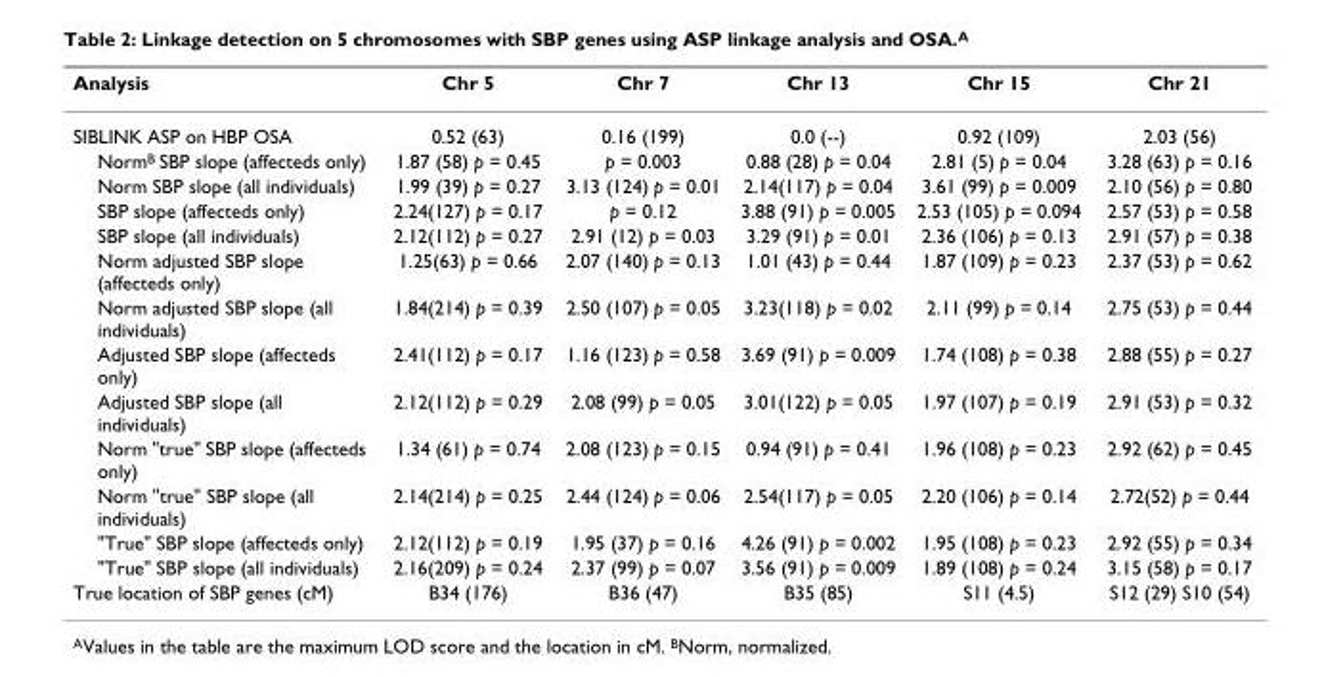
<table><thead><tr><td>Analysis</td><td>Chr 5</td><td>Chr 7</td><td>Chr 13</td><td>Chr 15</td><td>Chr 21</td></tr></thead><tbody><tr><td>SIBLINK ASP on HBP OSA</td><td>0.52 (63)</td><td>0.16 (199)</td><td>0.0 (--)</td><td>0.92 (109)</td><td>2.03 (56)</td></tr><tr><td>NormB SBP slope (affecteds only)</td><td>1.87 (58) p = 0.45</td><td>p = 0.003</td><td>0.88 (28) p = 0.04</td><td>2.81 (5) p = 0.04</td><td>3.28 (63) p = 0.16</td></tr><tr><td>Norm SBP slope (all individuals)</td><td>1.99 (39) p = 0.27</td><td>3.13 (124) p = 0.01</td><td>2.14(117) p = 0.04</td><td>3.61 (99) p = 0.009</td><td>2.10 (56) p = 0.80</td></tr><tr><td>SBP slope (affecteds only)</td><td>2.24(127) p = 0.17</td><td>p = 0.12</td><td>3.88 (91) p = 0.005</td><td>2.53 (105) p = 0.094</td><td>2.57 (53) p = 0.58</td></tr><tr><td>SBP slope (all individuals)</td><td>2.12(112) p = 0.27</td><td>2.91 (12) p = 0.03</td><td>3.29 (91) p = 0.01</td><td>2.36 (106) p = 0.13</td><td>2.91 (57) p = 0.38</td></tr><tr><td>Norm adjusted SBP slope (affecteds only)</td><td>1.25(63) p = 0.66</td><td>2.07 (140) p = 0.13</td><td>1.01 (43) p = 0.44</td><td>1.87 (109) p = 0.23</td><td>2.37 (53) p = 0.62</td></tr><tr><td>Norm adjusted SBP slope (all individuals)</td><td>1.84(214) p = 0.39</td><td>2.50 (107) p = 0.05</td><td>3.23(118) p = 0.02</td><td>2.11 (99) p = 0.14</td><td>2.75 (53) p = 0.44</td></tr><tr><td>Adjusted SBP slope (affecteds only)</td><td>2.41(112) p = 0.17</td><td>1.16 (123) p = 0.58</td><td>3.69 (91) p = 0.009</td><td>1.74 (108) p = 0.38</td><td>2.88 (55) p = 0.27</td></tr><tr><td>Adjusted SBP slope (all individuals)</td><td>2.12(112) p = 0.29</td><td>2.08 (99) p = 0.05</td><td>3.01(122) p = 0.05</td><td>1.97 (107) p = 0.19</td><td>2.91 (53) p = 0.32</td></tr><tr><td>Norm &quot;true&quot; SBP slope (affecteds only)</td><td>1.34 (61) p = 0.74</td><td>2.08 (123) p = 0.15</td><td>0.94 (91) p = 0.41</td><td>1.96 (108) p = 0.23</td><td>2.92 (62) p = 0.45</td></tr><tr><td>Norm &quot;true&quot; SBP slope (all individuals)</td><td>2.14(214) p = 0.25</td><td>2.44 (124) p = 0.06</td><td>2.54(117) p = 0.05</td><td>2.20 (106) p = 0.14</td><td>2.72(52) p = 0.44</td></tr><tr><td>&quot;True&quot; SBP slope (affecteds only)</td><td>2.12(112) p = 0.19</td><td>1.95 (37) p = 0.16</td><td>4.26 (91) p = 0.002</td><td>1.95 (108) p = 0.23</td><td>2.92 (55) p = 0.34</td></tr><tr><td>&quot;True&quot; SBP slope (all individuals)</td><td>2.16(209) p = 0.24</td><td>2.37 (99) p = 0.07</td><td>3.56 (91) p = 0.009</td><td>1.89 (108) p = 0.24</td><td>3.15 (58) p = 0.17</td></tr><tr><td>True location of SBP genes (cM)</td><td>B34 (176)</td><td>B36 (47)</td><td>B35 (85)</td><td>S11 (4.5)</td><td>S12 (29) S10 (54)</td></tr></tbody></table>